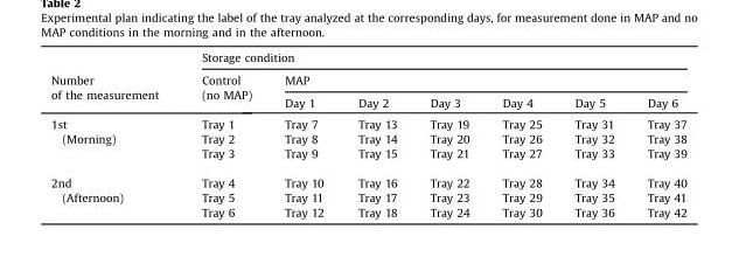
<table><thead><tr><td rowspan="3">Number of the measurement</td><td colspan="7">Storage condition</td></tr><tr><td rowspan="2">Control (no MAP)</td><td colspan="6">MAP</td></tr><tr><td>Day 1</td><td>Day 2</td><td>Day 3</td><td>Day 4</td><td>Day 5</td><td>Day 6</td></tr></thead><tbody><tr><td rowspan="3">1st (Morning)</td><td>Tray 1</td><td>Tray 7</td><td>Tray 13</td><td>Tray 19</td><td>Tray 25</td><td>Tray 31</td><td>Tray 37</td></tr><tr><td>Tray 2</td><td>Tray 8</td><td>Tray 14</td><td>Tray 20</td><td>Tray 26</td><td>Tray 32</td><td>Tray 38</td></tr><tr><td>Tray 3</td><td>Tray 9</td><td>Tray 15</td><td>Tray 21</td><td>Tray 27</td><td>Tray 33</td><td>Tray 39</td></tr><tr><td rowspan="3">2nd (Afternoon)</td><td>Tray 4</td><td>Tray 10</td><td>Tray 16</td><td>Tray 22</td><td>Tray 28</td><td>Tray 34</td><td>Tray 40</td></tr><tr><td>Tray 5</td><td>Tray 11</td><td>Tray 17</td><td>Tray 23</td><td>Tray 29</td><td>Tray 35</td><td>Tray 41</td></tr><tr><td>Tray 6</td><td>Tray 12</td><td>Tray 18</td><td>Tray 24</td><td>Tray 30</td><td>Tray 36</td><td>Tray 42</td></tr></tbody></table>